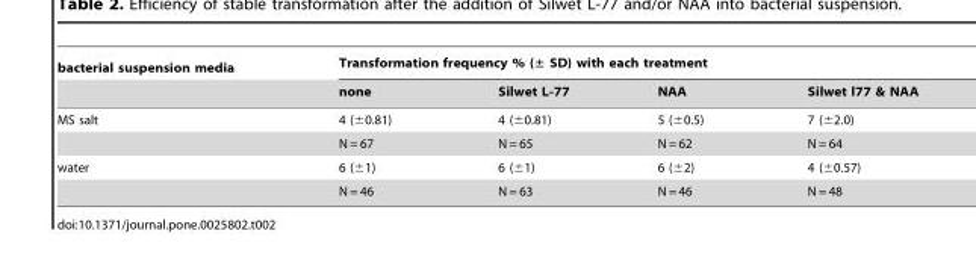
<table><thead><tr><td rowspan="2">bacterial suspension media</td><td colspan="4">Transformation frequency % (± SD) with each treatment</td></tr><tr><td>none</td><td>Silwet L-77</td><td>NAA</td><td>Silwet l77 &amp; NAA</td></tr></thead><tbody><tr><td rowspan="2">MS salt</td><td>4 (±0.81)</td><td>4 (±0.81)</td><td>5 (±0.5)</td><td>7 (±2.0)</td></tr><tr><td>N = 67</td><td>N = 65</td><td>N = 62</td><td>N = 64</td></tr><tr><td rowspan="2">water</td><td>6 (±1)</td><td>6 (±1)</td><td>6 (±2)</td><td>4 (±0.57)</td></tr><tr><td>N = 46</td><td>N = 63</td><td>N = 46</td><td>N = 48</td></tr></tbody></table>